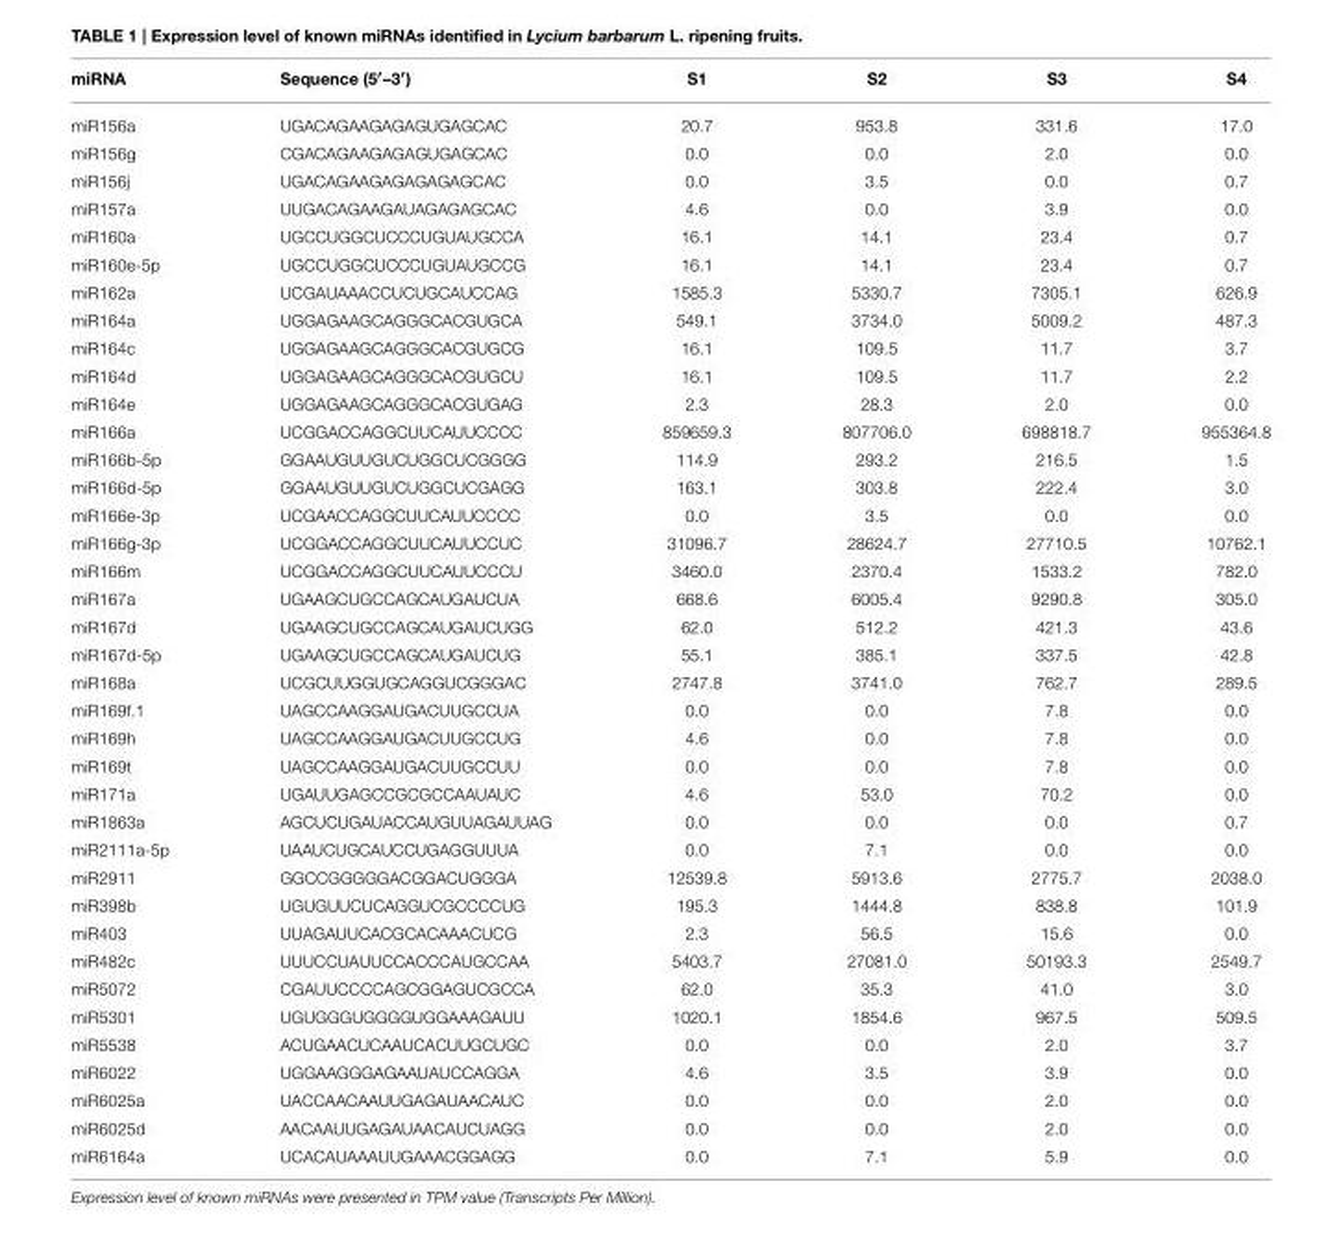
<table><thead><tr><td>miRNA</td><td>Sequence (5′–3′)</td><td>S1</td><td>S2</td><td>S3</td><td>S4</td></tr></thead><tbody><tr><td>miR156a</td><td>UGACAGAAGAGAGUGAGCAC</td><td>20.7</td><td>953.8</td><td>331.6</td><td>17.0</td></tr><tr><td>miR156g</td><td>CGACAGAAGAGAGUGAGCAC</td><td>0.0</td><td>0.0</td><td>2.0</td><td>0.0</td></tr><tr><td>miR156j</td><td>UGACAGAAGAGAGAGAGCAC</td><td>0.0</td><td>3.5</td><td>0.0</td><td>0.7</td></tr><tr><td>miR157a</td><td>UUGACAGAAGAUAGAGAGCAC</td><td>4.6</td><td>0.0</td><td>3.9</td><td>0.0</td></tr><tr><td>miR160a</td><td>UGCCUGGCUCCCUGUAUGCCA</td><td>16.1</td><td>14.1</td><td>23.4</td><td>0.7</td></tr><tr><td>miR160e-5p</td><td>UGCCUGGCUCCCUGUAUGCCG</td><td>16.1</td><td>14.1</td><td>23.4</td><td>0.7</td></tr><tr><td>miR162a</td><td>UCGAUAAACCUCUGCAUCCAG</td><td>1585.3</td><td>5330.7</td><td>7305.1</td><td>626.9</td></tr><tr><td>miR164a</td><td>UGGAGAAGCAGGGCACGUGCA</td><td>549.1</td><td>3734.0</td><td>5009.2</td><td>487.3</td></tr><tr><td>miR164c</td><td>UGGAGAAGCAGGGCACGUGCG</td><td>16.1</td><td>109.5</td><td>11.7</td><td>3.7</td></tr><tr><td>miR164d</td><td>UGGAGAAGCAGGGCACGUGCU</td><td>16.1</td><td>109.5</td><td>11.7</td><td>2.2</td></tr><tr><td>miR164e</td><td>UGGAGAAGCAGGGCACGUGAG</td><td>2.3</td><td>28.3</td><td>2.0</td><td>0.0</td></tr><tr><td>miR166a</td><td>UCGGACCAGGCUUCAUUCCCC</td><td>859659.3</td><td>807706.0</td><td>698818.7</td><td>955364.8</td></tr><tr><td>miR166b-5p</td><td>GGAAUGUUGUCUGGCUCGGGG</td><td>114.9</td><td>293.2</td><td>216.5</td><td>1.5</td></tr><tr><td>miR166d-5p</td><td>GGAAUGUUGUCUGGCUCGAGG</td><td>163.1</td><td>303.8</td><td>222.4</td><td>3.0</td></tr><tr><td>miR166e-3p</td><td>UCGAACCAGGCUUCAUUCCCC</td><td>0.0</td><td>3.5</td><td>0.0</td><td>0.0</td></tr><tr><td>miR166g-3p</td><td>UCGGACCAGGCUUCAUUCCUC</td><td>31096.7</td><td>28624.7</td><td>27710.5</td><td>10762.1</td></tr><tr><td>miR166m</td><td>UCGGACCAGGCUUCAUUCCCU</td><td>3460.0</td><td>2370.4</td><td>1533.2</td><td>782.0</td></tr><tr><td>miR167a</td><td>UGAAGCUGCCAGCAUGAUCUA</td><td>668.6</td><td>6005.4</td><td>9290.8</td><td>305.0</td></tr><tr><td>miR167d</td><td>UGAAGCUGCCAGCAUGAUCUGG</td><td>62.0</td><td>512.2</td><td>421.3</td><td>43.6</td></tr><tr><td>miR167d-5p</td><td>UGAAGCUGCCAGCAUGAUCUG</td><td>55.1</td><td>385.1</td><td>337.5</td><td>42.8</td></tr><tr><td>miR168a</td><td>UCGCUUGGUGCAGGUCGGGAC</td><td>2747.8</td><td>3741.0</td><td>762.7</td><td>289.5</td></tr><tr><td>miR169f.1</td><td>UAGCCAAGGAUGACUUGCCUA</td><td>0.0</td><td>0.0</td><td>7.8</td><td>0.0</td></tr><tr><td>miR169h</td><td>UAGCCAAGGAUGACUUGCCUG</td><td>4.6</td><td>0.0</td><td>7.8</td><td>0.0</td></tr><tr><td>miR169t</td><td>UAGCCAAGGAUGACUUGCCUU</td><td>0.0</td><td>0.0</td><td>7.8</td><td>0.0</td></tr><tr><td>miR171a</td><td>UGAUUGAGCCGCGCCAAUAUC</td><td>4.6</td><td>53.0</td><td>70.2</td><td>0.0</td></tr><tr><td>miR1863a</td><td>AGCUCUGAUACCAUGUUAGAUUAG</td><td>0.0</td><td>0.0</td><td>0.0</td><td>0.7</td></tr><tr><td>miR2111a-5p</td><td>UAAUCUGCAUCCUGAGGUUUA</td><td>0.0</td><td>7.1</td><td>0.0</td><td>0.0</td></tr><tr><td>miR2911</td><td>GGCCGGGGGACGGACUGGGA</td><td>12539.8</td><td>5913.6</td><td>2775.7</td><td>2038.0</td></tr><tr><td>miR398b</td><td>UGUGUUCUCAGGUCGCCCCUG</td><td>195.3</td><td>1444.8</td><td>838.8</td><td>101.9</td></tr><tr><td>miR403</td><td>UUAGAUUCACGCACAAACUCG</td><td>2.3</td><td>56.5</td><td>15.6</td><td>0.0</td></tr><tr><td>miR482c</td><td>UUUCCUAUUCCACCCAUGCCAA</td><td>5403.7</td><td>27081.0</td><td>50193.3</td><td>2549.7</td></tr><tr><td>miR5072</td><td>CGAUUCCCCAGCGGAGUCGCCA</td><td>62.0</td><td>35.3</td><td>41.0</td><td>3.0</td></tr><tr><td>miR5301</td><td>UGUGGGUGGGGUGGAAAGAUU</td><td>1020.1</td><td>1854.6</td><td>967.5</td><td>509.5</td></tr><tr><td>miR5538</td><td>ACUGAACUCAAUCACUUGCUGC</td><td>0.0</td><td>0.0</td><td>2.0</td><td>3.7</td></tr><tr><td>miR6022</td><td>UGGAAGGGAGAAUAUCCAGGA</td><td>4.6</td><td>3.5</td><td>3.9</td><td>0.0</td></tr><tr><td>miR6025a</td><td>UACCAACAAUUGAGAUAACAUC</td><td>0.0</td><td>0.0</td><td>2.0</td><td>0.0</td></tr><tr><td>miR6025d</td><td>AACAAUUGAGAUAACAUCUAGG</td><td>0.0</td><td>0.0</td><td>2.0</td><td>0.0</td></tr><tr><td>miR6164a</td><td>UCACAUAAAUUGAAACGGAGG</td><td>0.0</td><td>7.1</td><td>5.9</td><td>0.0</td></tr></tbody></table>